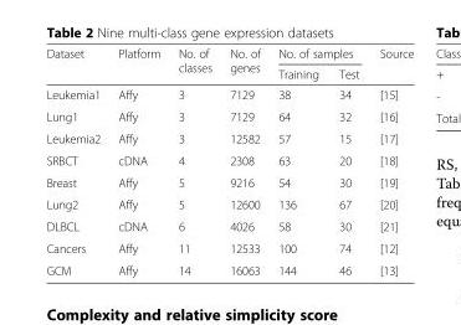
<table><thead><tr><td rowspan="2">Dataset</td><td rowspan="2">Platform</td><td rowspan="2">No. of classes</td><td rowspan="2">No. of genes</td><td colspan="2">No. of samples</td><td rowspan="2">Source</td></tr><tr><td>Training</td><td>Test</td></tr></thead><tbody><tr><td>Leukemia1</td><td>Affy</td><td>3</td><td>7129</td><td>38</td><td>34</td><td>[15]</td></tr><tr><td>Lung1</td><td>Affy</td><td>3</td><td>7129</td><td>64</td><td>32</td><td>[16]</td></tr><tr><td>Leukemia2</td><td>Affy</td><td>3</td><td>12582</td><td>57</td><td>15</td><td>[17]</td></tr><tr><td>SRBCT</td><td>cDNA</td><td>4</td><td>2308</td><td>63</td><td>20</td><td>[18]</td></tr><tr><td>Breast</td><td>Affy</td><td>5</td><td>9216</td><td>54</td><td>30</td><td>[19]</td></tr><tr><td>Lung2</td><td>Affy</td><td>5</td><td>12600</td><td>136</td><td>67</td><td>[20]</td></tr><tr><td>DLBCL</td><td>cDNA</td><td>6</td><td>4026</td><td>58</td><td>30</td><td>[21]</td></tr><tr><td>Cancers</td><td>Affy</td><td>11</td><td>12533</td><td>100</td><td>74</td><td>[12]</td></tr><tr><td>GCM</td><td>Affy</td><td>14</td><td>16063</td><td>144</td><td>46</td><td>[13]</td></tr></tbody></table>